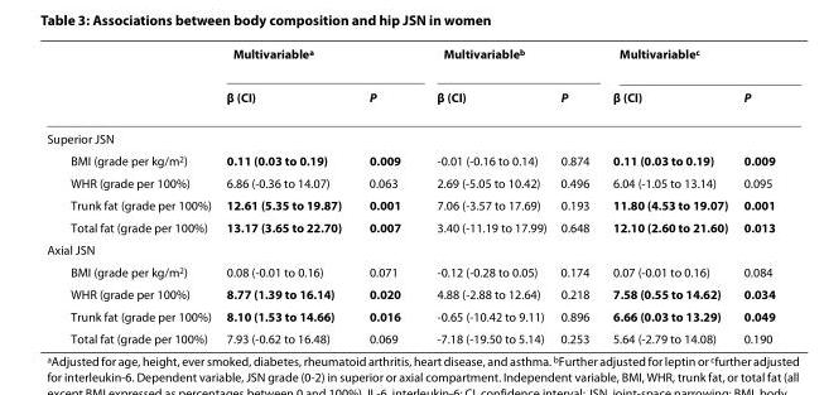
<table><thead><tr><td rowspan="2"></td><td colspan="2">Multivariable<sup>a</sup></td><td colspan="2">Multivariable<sup>b</sup></td><td colspan="2">Multivariable<sup>c</sup></td></tr><tr><td>β (CI)</td><td>P</td><td>β (CI)</td><td>P</td><td>β (CI)</td><td>P</td></tr></thead><tbody><tr><td colspan="7">Superior JSN</td></tr><tr><td>BMI (grade per kg/m<sup>2</sup>)</td><td>0.11 (0.03 to 0.19)</td><td>0.009</td><td>-0.01 (-0.16 to 0.14)</td><td>0.874</td><td>0.11 (0.03 to 0.19)</td><td>0.009</td></tr><tr><td>WHR (grade per 100%)</td><td>6.86 (-0.36 to 14.07)</td><td>0.063</td><td>2.69 (-5.05 to 10.42)</td><td>0.496</td><td>6.04 (-1.05 to 13.14)</td><td>0.095</td></tr><tr><td>Trunk fat (grade per 100%)</td><td>12.61 (5.35 to 19.87)</td><td>0.001</td><td>7.06 (-3.57 to 17.69)</td><td>0.193</td><td>11.80 (4.53 to 19.07)</td><td>0.001</td></tr><tr><td>Total fat (grade per 100%)</td><td>13.17 (3.65 to 22.70)</td><td>0.007</td><td>3.40 (-11.19 to 17.99)</td><td>0.648</td><td>12.10 (2.60 to 21.60)</td><td>0.013</td></tr><tr><td colspan="7">Axial JSN</td></tr><tr><td>BMI (grade per kg/m<sup>2</sup>)</td><td>0.08 (-0.01 to 0.16)</td><td>0.071</td><td>-0.12 (-0.28 to 0.05)</td><td>0.174</td><td>0.07 (-0.01 to 0.16)</td><td>0.084</td></tr><tr><td>WHR (grade per 100%)</td><td>8.77 (1.39 to 16.14)</td><td>0.020</td><td>4.88 (-2.88 to 12.64)</td><td>0.218</td><td>7.58 (0.55 to 14.62)</td><td>0.034</td></tr><tr><td>Trunk fat (grade per 100%)</td><td>8.10 (1.53 to 14.66)</td><td>0.016</td><td>-0.65 (-10.42 to 9.11)</td><td>0.896</td><td>6.66 (0.03 to 13.29)</td><td>0.049</td></tr><tr><td>Total fat (grade per 100%)</td><td>7.93 (-0.62 to 16.48)</td><td>0.069</td><td>-7.18 (-19.50 to 5.14)</td><td>0.253</td><td>5.64 (-2.79 to 14.08)</td><td>0.190</td></tr></tbody></table>